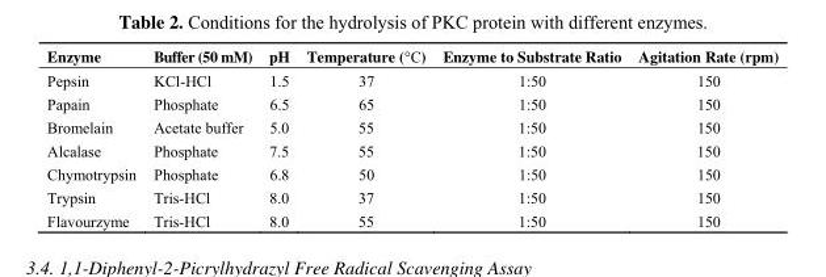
<table><thead><tr><td>Enzyme</td><td>Buffer (50 mM)</td><td>pH</td><td>Temperature (°C)</td><td>Enzyme to Substrate Ratio</td><td>Agitation Rate (rpm)</td></tr></thead><tbody><tr><td>Pepsin</td><td>KCl-HCl</td><td>1.5</td><td>37</td><td>1:50</td><td>150</td></tr><tr><td>Papain</td><td>Phosphate</td><td>6.5</td><td>65</td><td>1:50</td><td>150</td></tr><tr><td>Bromelain</td><td>Acetate buffer</td><td>5.0</td><td>55</td><td>1:50</td><td>150</td></tr><tr><td>Alcalase</td><td>Phosphate</td><td>7.5</td><td>55</td><td>1:50</td><td>150</td></tr><tr><td>Chymotrypsin</td><td>Phosphate</td><td>6.8</td><td>50</td><td>1:50</td><td>150</td></tr><tr><td>Trypsin</td><td>Tris-HCl</td><td>8.0</td><td>37</td><td>1:50</td><td>150</td></tr><tr><td>Flavourzyme</td><td>Tris-HCl</td><td>8.0</td><td>55</td><td>1:50</td><td>150</td></tr></tbody></table>